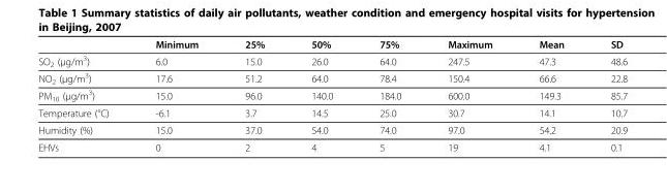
<table><thead><tr><td></td><td>Minimum</td><td>25%</td><td>50%</td><td>75%</td><td>Maximum</td><td>Mean</td><td>SD</td></tr></thead><tbody><tr><td>SO<sub>2</sub> (μg/m<sup>3</sup>)</td><td>6.0</td><td>15.0</td><td>26.0</td><td>64.0</td><td>247.5</td><td>47.3</td><td>48.6</td></tr><tr><td>NO<sub>2</sub> (μg/m<sup>3</sup>)</td><td>17.6</td><td>51.2</td><td>64.0</td><td>78.4</td><td>150.4</td><td>66.6</td><td>22.8</td></tr><tr><td>PM<sub>10</sub> (μg/m<sup>3</sup>)</td><td>15.0</td><td>96.0</td><td>140.0</td><td>184.0</td><td>600.0</td><td>149.3</td><td>85.7</td></tr><tr><td>Temperature (°C)</td><td>-6.1</td><td>3.7</td><td>14.5</td><td>25.0</td><td>30.7</td><td>14.1</td><td>10.7</td></tr><tr><td>Humidity (%)</td><td>15.0</td><td>37.0</td><td>54.0</td><td>74.0</td><td>97.0</td><td>54.2</td><td>20.9</td></tr><tr><td>EHVs</td><td>0</td><td>2</td><td>4</td><td>5</td><td>19</td><td>4.1</td><td>0.1</td></tr></tbody></table>